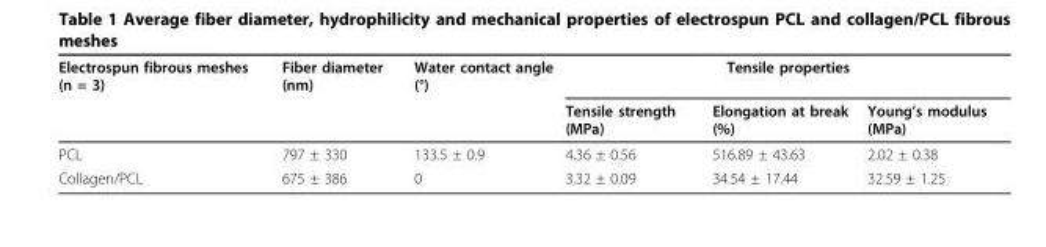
<table><thead><tr><td rowspan="2">Electrospun fibrous meshes (n = 3)</td><td rowspan="2">Fiber diameter (nm)</td><td rowspan="2">Water contact angle (°)</td><td colspan="3">Tensile properties</td></tr><tr><td>Tensile strength (MPa)</td><td>Elongation at break (%)</td><td>Young’s modulus (MPa)</td></tr></thead><tbody><tr><td>PCL</td><td>797 ± 330</td><td>133.5 ± 0.9</td><td>4.36 ± 0.56</td><td>516.89 ± 43.63</td><td>2.02 ± 0.38</td></tr><tr><td>Collagen/PCL</td><td>675 ± 386</td><td>0</td><td>3.32 ± 0.09</td><td>34.54 ± 17.44</td><td>32.59 ± 1.25</td></tr></tbody></table>